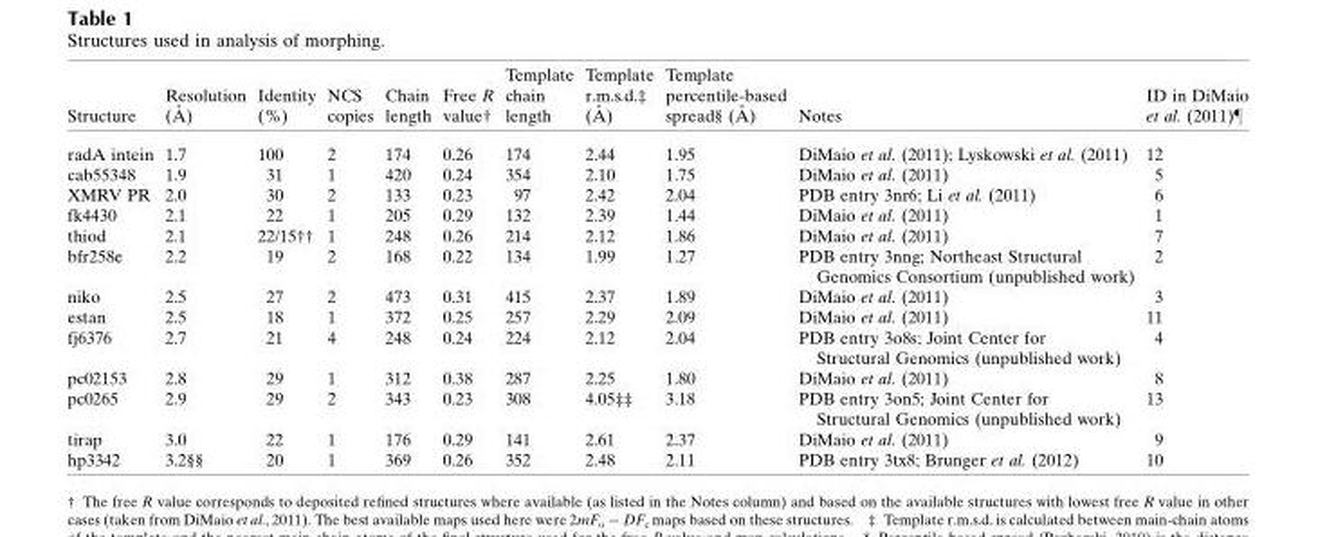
<table><thead><tr><td>Structure</td><td>Resolution (A˚ )</td><td>Identity (%)</td><td>NCS copies</td><td>Chain length</td><td>Free R value†</td><td>Template chain length</td><td>Template r.m.s.d.‡ (A˚ )</td><td>Template percentile-based spread§ (A˚ )</td><td>Notes</td><td>ID in DiMaio et al. (2011)}</td></tr></thead><tbody><tr><td>radA intein</td><td>1.7</td><td>100</td><td>2</td><td>174</td><td>0.26</td><td>174</td><td>2.44</td><td>1.95</td><td>DiMaio et al. (2011); Lyskowski et al. (2011)</td><td>12</td></tr><tr><td>cab55348</td><td>1.9</td><td>31</td><td>1</td><td>420</td><td>0.24</td><td>354</td><td>2.10</td><td>1.75</td><td>DiMaio et al. (2011)</td><td>5</td></tr><tr><td>XMRV PR</td><td>2.0</td><td>30</td><td>2</td><td>133</td><td>0.23</td><td>97</td><td>2.42</td><td>2.04</td><td>PDB entry 3nr6; Li et al. (2011)</td><td>6</td></tr><tr><td>fk4430</td><td>2.1</td><td>22</td><td>1</td><td>205</td><td>0.29</td><td>132</td><td>2.39</td><td>1.44</td><td>DiMaio et al. (2011)</td><td>1</td></tr><tr><td>thiod</td><td>2.1</td><td>22/15††</td><td>1</td><td>248</td><td>0.26</td><td>214</td><td>2.12</td><td>1.86</td><td>DiMaio et al. (2011)</td><td>7</td></tr><tr><td>bfr258e</td><td>2.2</td><td>19</td><td>2</td><td>168</td><td>0.22</td><td>134</td><td>1.99</td><td>1.27</td><td>PDB entry 3nng; Northeast Structural Genomics Consortium (unpublished work)</td><td>2</td></tr><tr><td>niko</td><td>2.5</td><td>27</td><td>2</td><td>473</td><td>0.31</td><td>415</td><td>2.37</td><td>1.89</td><td>DiMaio et al. (2011)</td><td>3</td></tr><tr><td>estan</td><td>2.5</td><td>18</td><td>1</td><td>372</td><td>0.25</td><td>257</td><td>2.29</td><td>2.09</td><td>DiMaio et al. (2011)</td><td>11</td></tr><tr><td>fj6376</td><td>2.7</td><td>21</td><td>4</td><td>248</td><td>0.24</td><td>224</td><td>2.12</td><td>2.04</td><td>PDB entry 3o8s; Joint Center for Structural Genomics (unpublished work)</td><td>4</td></tr><tr><td>pc02153</td><td>2.8</td><td>29</td><td>1</td><td>312</td><td>0.38</td><td>287</td><td>2.25</td><td>1.80</td><td>DiMaio et al. (2011)</td><td>8</td></tr><tr><td>pc0265</td><td>2.9</td><td>29</td><td>2</td><td>343</td><td>0.23</td><td>308</td><td>4.05‡‡</td><td>3.18</td><td>PDB entry 3on5; Joint Center for Structural Genomics (unpublished work)</td><td>13</td></tr><tr><td>tirap</td><td>3.0</td><td>22</td><td>1</td><td>176</td><td>0.29</td><td>141</td><td>2.61</td><td>2.37</td><td>DiMaio et al. (2011)</td><td>9</td></tr><tr><td>hp3342</td><td>3.2§§</td><td>20</td><td>1</td><td>369</td><td>0.26</td><td>352</td><td>2.48</td><td>2.11</td><td>PDB entry 3tx8; Brunger et al. (2012)</td><td>10</td></tr></tbody></table>